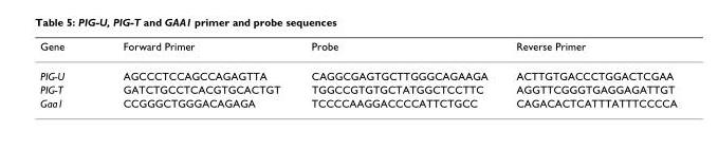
<table><thead><tr><td>Gene</td><td>Forward Primer</td><td>Probe</td><td>Reverse Primer</td></tr></thead><tbody><tr><td>PIG-U</td><td>AGCCCTCCAGCCAGAGTTA</td><td>CAGGCGAGTGCTTGGGCAGAAGA</td><td>ACTTGTGACCCTGGACTCGAA</td></tr><tr><td>PIG-T</td><td>GATCTGCCTCACGTGCACTGT</td><td>TGGCCGTGTGCTATGGCTCCTTC</td><td>AGGTTCGGGTGAGGAGATTGT</td></tr><tr><td>Gaa1</td><td>CCGGGCTGGGACAGAGA</td><td>TCCCCAAGGACCCCATTCTGCC</td><td>CAGACACTCATTTATTTCCCCA</td></tr></tbody></table>